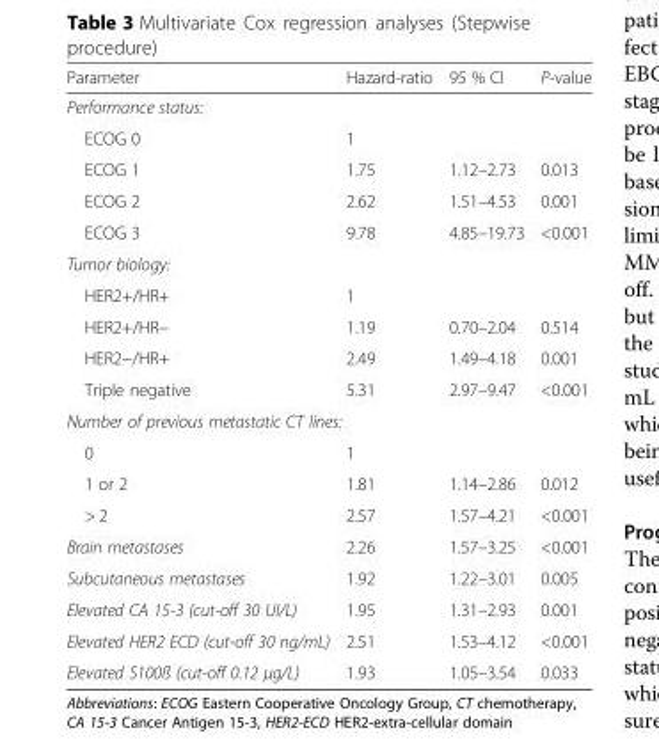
<table><thead><tr><td>Parameter</td><td>Hazard-ratio</td><td>95 % CI</td><td>P-value</td></tr></thead><tbody><tr><td colspan="4">Performance status:</td></tr><tr><td>ECOG 0</td><td>1</td><td></td><td></td></tr><tr><td>ECOG 1</td><td>1.75</td><td>1.12–2.73</td><td>0.013</td></tr><tr><td>ECOG 2</td><td>2.62</td><td>1.51–4.53</td><td>0.001</td></tr><tr><td>ECOG 3</td><td>9.78</td><td>4.85–19.73</td><td>&lt;0.001</td></tr><tr><td colspan="4">Tumor biology:</td></tr><tr><td>HER2+/HR+</td><td>1</td><td></td><td></td></tr><tr><td>HER2+/HR−</td><td>1.19</td><td>0.70–2.04</td><td>0.514</td></tr><tr><td>HER2−/HR+</td><td>2.49</td><td>1.49–4.18</td><td>0.001</td></tr><tr><td>Triple negative</td><td>5.31</td><td>2.97–9.47</td><td>&lt;0.001</td></tr><tr><td colspan="4">Number of previous metastatic CT lines:</td></tr><tr><td>0</td><td>1</td><td></td><td></td></tr><tr><td>1 or 2</td><td>1.81</td><td>1.14–2.86</td><td>0.012</td></tr><tr><td>&gt; 2</td><td>2.57</td><td>1.57–4.21</td><td>&lt;0.001</td></tr><tr><td>Brain metastases</td><td>2.26</td><td>1.57–3.25</td><td>&lt;0.001</td></tr><tr><td>Subcutaneous metastases</td><td>1.92</td><td>1.22–3.01</td><td>0.005</td></tr><tr><td>Elevated CA 15-3 (cut-off 30 UI/L)</td><td>1.95</td><td>1.31–2.93</td><td>0.001</td></tr><tr><td>Elevated HER2 ECD (cut-off 30 ng/mL)</td><td>2.51</td><td>1.53–4.12</td><td>&lt;0.001</td></tr><tr><td>Elevated S100ß (cut-off 0.12 μg/L)</td><td>1.93</td><td>1.05–3.54</td><td>0.033</td></tr></tbody></table>